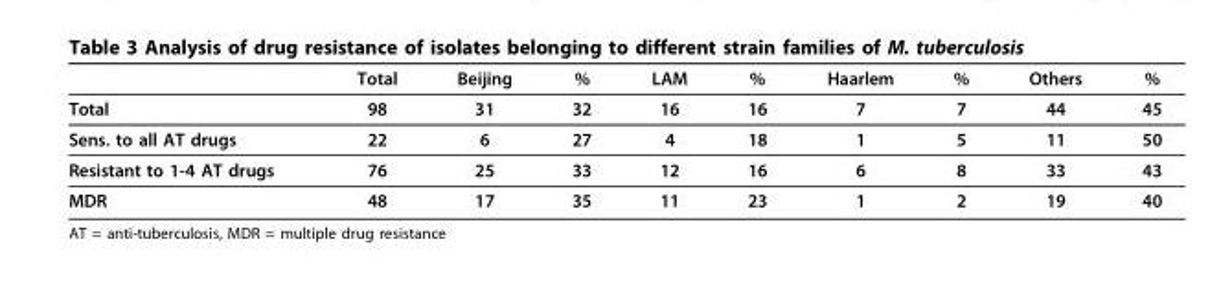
<table><thead><tr><td></td><td>Total</td><td>Beijing</td><td>%</td><td>LAM</td><td>%</td><td>Haarlem</td><td>%</td><td>Others</td><td>%</td></tr></thead><tbody><tr><td>Total</td><td>98</td><td>31</td><td>32</td><td>16</td><td>16</td><td>7</td><td>7</td><td>44</td><td>45</td></tr><tr><td>Sens. to all AT drugs</td><td>22</td><td>6</td><td>27</td><td>4</td><td>18</td><td>1</td><td>5</td><td>11</td><td>50</td></tr><tr><td>Resistant to 1-4 AT drugs</td><td>76</td><td>25</td><td>33</td><td>12</td><td>16</td><td>6</td><td>8</td><td>33</td><td>43</td></tr><tr><td>MDR</td><td>48</td><td>17</td><td>35</td><td>11</td><td>23</td><td>1</td><td>2</td><td>19</td><td>40</td></tr></tbody></table>